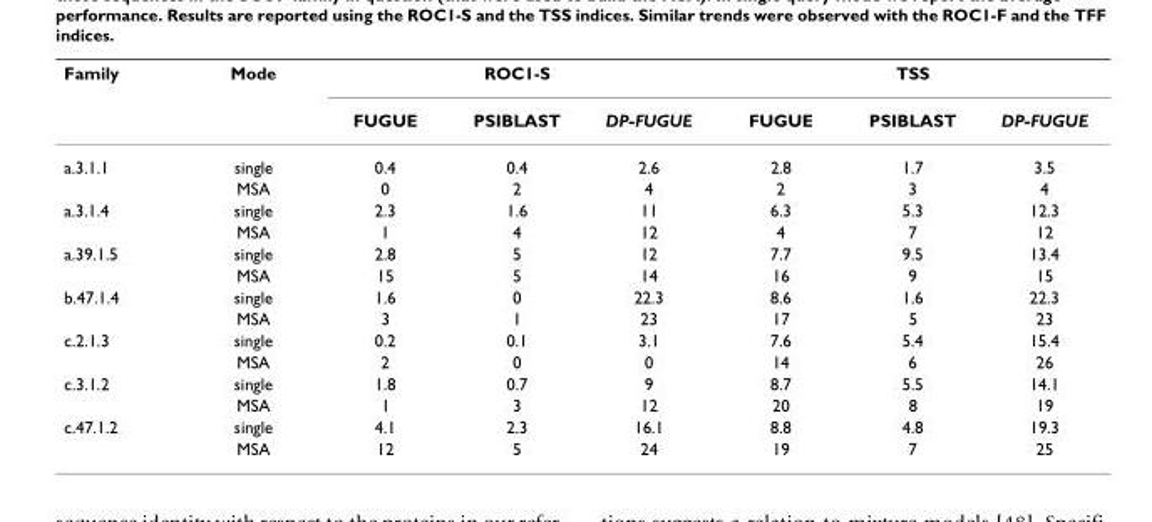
<table><thead><tr><td rowspan="2">Family</td><td rowspan="2">Mode</td><td colspan="3">ROC1-S</td><td colspan="3">TSS</td></tr><tr><td>FUGUE</td><td>PSIBLAST</td><td>DP-FUGUE</td><td>FUGUE</td><td>PSIBLAST</td><td>DP-FUGUE</td></tr></thead><tbody><tr><td rowspan="2">a.3.1.1</td><td>single</td><td>0.4</td><td>0.4</td><td>2.6</td><td>2.8</td><td>1.7</td><td>3.5</td></tr><tr><td>MSA</td><td>0</td><td>2</td><td>4</td><td>2</td><td>3</td><td>4</td></tr><tr><td rowspan="2">a.3.1.4</td><td>single</td><td>2.3</td><td>1.6</td><td>11</td><td>6.3</td><td>5.3</td><td>12.3</td></tr><tr><td>MSA</td><td>1</td><td>4</td><td>12</td><td>4</td><td>7</td><td>12</td></tr><tr><td rowspan="2">a.39.1.5</td><td>single</td><td>2.8</td><td>5</td><td>12</td><td>7.7</td><td>9.5</td><td>13.4</td></tr><tr><td>MSA</td><td>15</td><td>5</td><td>14</td><td>16</td><td>9</td><td>15</td></tr><tr><td rowspan="2">b.47.1.4</td><td>single</td><td>1.6</td><td>0</td><td>22.3</td><td>8.6</td><td>1.6</td><td>22.3</td></tr><tr><td>MSA</td><td>3</td><td>1</td><td>23</td><td>17</td><td>5</td><td>23</td></tr><tr><td rowspan="2">c.2.1.3</td><td>single</td><td>0.2</td><td>0.1</td><td>3.1</td><td>7.6</td><td>5.4</td><td>15.4</td></tr><tr><td>MSA</td><td>2</td><td>0</td><td>0</td><td>14</td><td>6</td><td>26</td></tr><tr><td rowspan="2">c.3.1.2</td><td>single</td><td>1.8</td><td>0.7</td><td>9</td><td>8.7</td><td>5.5</td><td>14.1</td></tr><tr><td>MSA</td><td>1</td><td>3</td><td>12</td><td>20</td><td>8</td><td>19</td></tr><tr><td rowspan="2">c.47.1.2</td><td>single</td><td>4.1</td><td>2.3</td><td>16.1</td><td>8.8</td><td>4.8</td><td>19.3</td></tr><tr><td>MSA</td><td>12</td><td>5</td><td>24</td><td>19</td><td>7</td><td>25</td></tr></tbody></table>